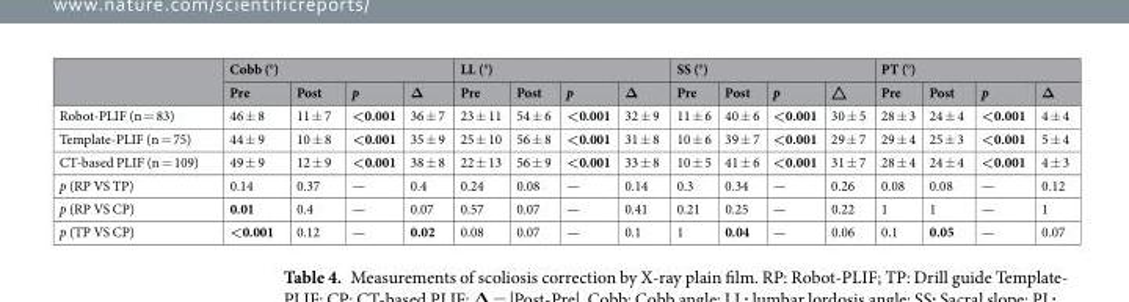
<table><thead><tr><td rowspan="2"></td><td colspan="4">Cobb (°)</td><td colspan="4">LL (°)</td><td colspan="4">SS (°)</td><td colspan="4">PT (°)</td></tr><tr><td>Pre</td><td>Post</td><td>p</td><td>Δ</td><td>Pre</td><td>Post</td><td>p</td><td>Δ</td><td>Pre</td><td>Post</td><td>p</td><td>△</td><td>Pre</td><td>Post</td><td>p</td><td>Δ</td></tr></thead><tbody><tr><td>Robot-PLIF (n = 83)</td><td>46 ± 8</td><td>11 ± 7</td><td>&lt;0.001</td><td>36 ± 7</td><td>23 ± 11</td><td>54 ± 6</td><td>&lt;0.001</td><td>32 ± 9</td><td>11 ± 6</td><td>40 ± 6</td><td>&lt;0.001</td><td>30 ± 5</td><td>28 ± 3</td><td>24 ± 4</td><td>&lt;0.001</td><td>4 ± 4</td></tr><tr><td>Template-PLIF (n = 75)</td><td>44 ± 9</td><td>10 ± 8</td><td>&lt;0.001</td><td>35 ± 9</td><td>25 ± 10</td><td>56 ± 8</td><td>&lt;0.001</td><td>31 ± 8</td><td>10 ± 6</td><td>39 ± 7</td><td>&lt;0.001</td><td>29 ± 7</td><td>29 ± 4</td><td>25 ± 3</td><td>&lt;0.001</td><td>5 ± 4</td></tr><tr><td>CT-based PLIF (n = 109)</td><td>49 ± 9</td><td>12 ± 9</td><td>&lt;0.001</td><td>38 ± 8</td><td>22 ± 13</td><td>56 ± 9</td><td>&lt;0.001</td><td>33 ± 8</td><td>10 ± 5</td><td>41 ± 6</td><td>&lt;0.001</td><td>31 ± 7</td><td>28 ± 4</td><td>24 ± 4</td><td>&lt;0.001</td><td>4 ± 3</td></tr><tr><td>p (RP VS TP)</td><td>0.14</td><td>0.37</td><td>—</td><td>0.4</td><td>0.24</td><td>0.08</td><td>—</td><td>0.14</td><td>0.3</td><td>0.34</td><td>—</td><td>0.26</td><td>0.08</td><td>0.08</td><td>—</td><td>0.12</td></tr><tr><td>p (RP VS CP)</td><td>0.01</td><td>0.4</td><td>—</td><td>0.07</td><td>0.57</td><td>0.07</td><td>—</td><td>0.41</td><td>0.21</td><td>0.25</td><td>—</td><td>0.22</td><td>1</td><td>1</td><td>—</td><td>1</td></tr><tr><td>p (TP VS CP)</td><td>&lt;0.001</td><td>0.12</td><td>—</td><td>0.02</td><td>0.08</td><td>0.07</td><td>—</td><td>0.1</td><td>1</td><td>0.04</td><td>—</td><td>0.06</td><td>0.1</td><td>0.05</td><td>—</td><td>0.07</td></tr></tbody></table>